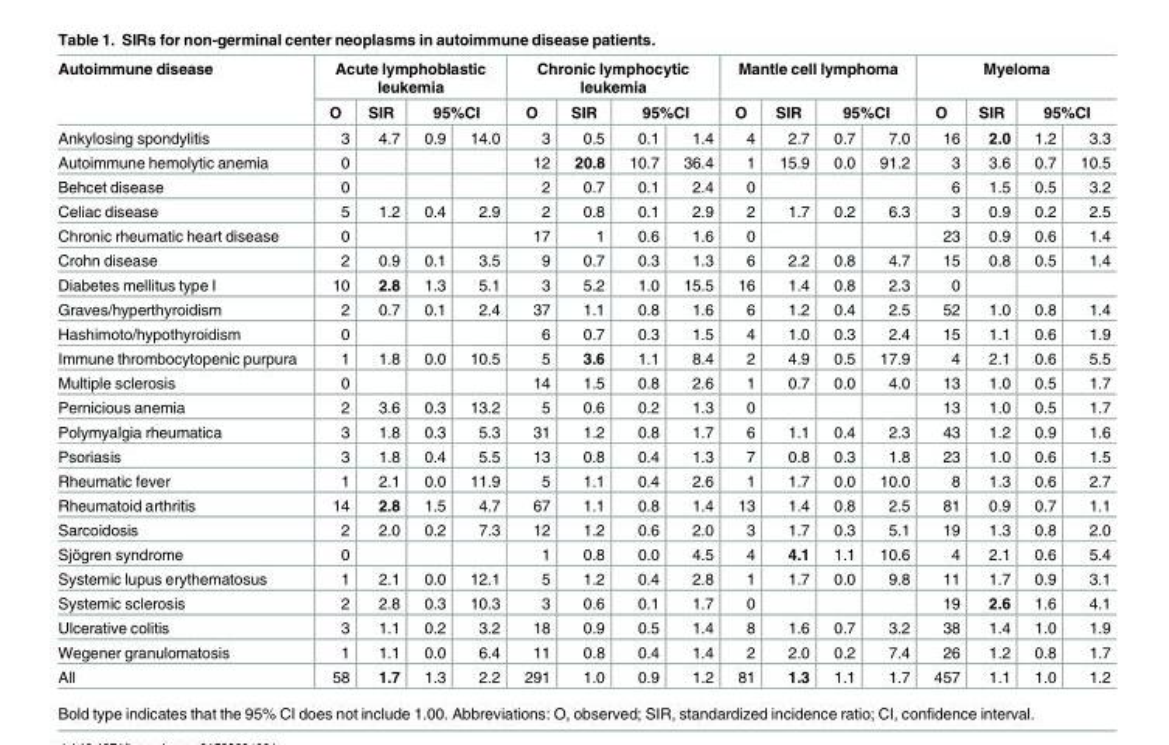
<table><thead><tr><td rowspan="3">Autoimmune disease Ankylosing spondylitis</td><td colspan="4">Acute lymphoblastic leukemia</td><td colspan="4">Chronic lymphocytic leukemia</td><td colspan="4">Mantle cell lymphoma</td><td colspan="4">Myeloma</td></tr><tr><td rowspan="2">O 3</td><td rowspan="2">SIR 4.7</td><td colspan="2">95%CI</td><td rowspan="2">O 3</td><td rowspan="2">SIR 0.5</td><td colspan="2">95%CI</td><td rowspan="2">O 4</td><td rowspan="2">SIR 2.7</td><td colspan="2">95%CI</td><td rowspan="2">O 16</td><td rowspan="2">SIR 2.0</td><td colspan="2">95%CI</td></tr><tr><td>0.9</td><td>14.0</td><td>0.1</td><td>1.4</td><td>0.7</td><td>7.0</td><td>1.2</td><td>3.3</td></tr></thead><tbody><tr><td>Autoimmune hemolytic anemia</td><td>0</td><td></td><td></td><td></td><td>12</td><td>20.8</td><td>10.7</td><td>36.4</td><td>1</td><td>15.9</td><td>0.0</td><td>91.2</td><td>3</td><td>3.6</td><td>0.7</td><td>10.5</td></tr><tr><td>Behcet disease</td><td>0</td><td></td><td></td><td></td><td>2</td><td>0.7</td><td>0.1</td><td>2.4</td><td>0</td><td></td><td></td><td></td><td>6</td><td>1.5</td><td>0.5</td><td>3.2</td></tr><tr><td>Celiac disease</td><td>5</td><td>1.2</td><td>0.4</td><td>2.9</td><td>2</td><td>0.8</td><td>0.1</td><td>2.9</td><td>2</td><td>1.7</td><td>0.2</td><td>6.3</td><td>3</td><td>0.9</td><td>0.2</td><td>2.5</td></tr><tr><td>Chronic rheumatic heart disease</td><td>0</td><td></td><td></td><td></td><td>17</td><td>1</td><td>0.6</td><td>1.6</td><td>0</td><td></td><td></td><td></td><td>23</td><td>0.9</td><td>0.6</td><td>1.4</td></tr><tr><td>Crohn disease</td><td>2</td><td>0.9</td><td>0.1</td><td>3.5</td><td>9</td><td>0.7</td><td>0.3</td><td>1.3</td><td>6</td><td>2.2</td><td>0.8</td><td>4.7</td><td>15</td><td>0.8</td><td>0.5</td><td>1.4</td></tr><tr><td>Diabetes mellitus type I</td><td>10</td><td>2.8</td><td>1.3</td><td>5.1</td><td>3</td><td>5.2</td><td>1.0</td><td>15.5</td><td>16</td><td>1.4</td><td>0.8</td><td>2.3</td><td>0</td><td></td><td></td><td></td></tr><tr><td>Graves/hyperthyroidism</td><td>2</td><td>0.7</td><td>0.1</td><td>2.4</td><td>37</td><td>1.1</td><td>0.8</td><td>1.6</td><td>6</td><td>1.2</td><td>0.4</td><td>2.5</td><td>52</td><td>1.0</td><td>0.8</td><td>1.4</td></tr><tr><td>Hashimoto/hypothyroidism</td><td>0</td><td></td><td></td><td></td><td>6</td><td>0.7</td><td>0.3</td><td>1.5</td><td>4</td><td>1.0</td><td>0.3</td><td>2.4</td><td>15</td><td>1.1</td><td>0.6</td><td>1.9</td></tr><tr><td>Immune thrombocytopenic purpura</td><td>1</td><td>1.8</td><td>0.0</td><td>10.5</td><td>5</td><td>3.6</td><td>1.1</td><td>8.4</td><td>2</td><td>4.9</td><td>0.5</td><td>17.9</td><td>4</td><td>2.1</td><td>0.6</td><td>5.5</td></tr><tr><td>Multiple sclerosis</td><td>0</td><td></td><td></td><td></td><td>14</td><td>1.5</td><td>0.8</td><td>2.6</td><td>1</td><td>0.7</td><td>0.0</td><td>4.0</td><td>13</td><td>1.0</td><td>0.5</td><td>1.7</td></tr><tr><td>Pernicious anemia</td><td>2</td><td>3.6</td><td>0.3</td><td>13.2</td><td>5</td><td>0.6</td><td>0.2</td><td>1.3</td><td>0</td><td></td><td></td><td></td><td>13</td><td>1.0</td><td>0.5</td><td>1.7</td></tr><tr><td>Polymyalgia rheumatica</td><td>3</td><td>1.8</td><td>0.3</td><td>5.3</td><td>31</td><td>1.2</td><td>0.8</td><td>1.7</td><td>6</td><td>1.1</td><td>0.4</td><td>2.3</td><td>43</td><td>1.2</td><td>0.9</td><td>1.6</td></tr><tr><td>Psoriasis</td><td>3</td><td>1.8</td><td>0.4</td><td>5.5</td><td>13</td><td>0.8</td><td>0.4</td><td>1.3</td><td>7</td><td>0.8</td><td>0.3</td><td>1.8</td><td>23</td><td>1.0</td><td>0.6</td><td>1.5</td></tr><tr><td>Rheumatic fever</td><td>1</td><td>2.1</td><td>0.0</td><td>11.9</td><td>5</td><td>1.1</td><td>0.4</td><td>2.6</td><td>1</td><td>1.7</td><td>0.0</td><td>10.0</td><td>8</td><td>1.3</td><td>0.6</td><td>2.7</td></tr><tr><td>Rheumatoid arthritis</td><td>14</td><td>2.8</td><td>1.5</td><td>4.7</td><td>67</td><td>1.1</td><td>0.8</td><td>1.4</td><td>13</td><td>1.4</td><td>0.8</td><td>2.5</td><td>81</td><td>0.9</td><td>0.7</td><td>1.1</td></tr><tr><td>Sarcoidosis</td><td>2</td><td>2.0</td><td>0.2</td><td>7.3</td><td>12</td><td>1.2</td><td>0.6</td><td>2.0</td><td>3</td><td>1.7</td><td>0.3</td><td>5.1</td><td>19</td><td>1.3</td><td>0.8</td><td>2.0</td></tr><tr><td>Sjögren syndrome</td><td>0</td><td></td><td></td><td></td><td>1</td><td>0.8</td><td>0.0</td><td>4.5</td><td>4</td><td>4.1</td><td>1.1</td><td>10.6</td><td>4</td><td>2.1</td><td>0.6</td><td>5.4</td></tr><tr><td>Systemic lupus erythematosus</td><td>1</td><td>2.1</td><td>0.0</td><td>12.1</td><td>5</td><td>1.2</td><td>0.4</td><td>2.8</td><td>1</td><td>1.7</td><td>0.0</td><td>9.8</td><td>11</td><td>1.7</td><td>0.9</td><td>3.1</td></tr><tr><td>Systemic sclerosis</td><td>2</td><td>2.8</td><td>0.3</td><td>10.3</td><td>3</td><td>0.6</td><td>0.1</td><td>1.7</td><td>0</td><td></td><td></td><td></td><td>19</td><td>2.6</td><td>1.6</td><td>4.1</td></tr><tr><td>Ulcerative colitis</td><td>3</td><td>1.1</td><td>0.2</td><td>3.2</td><td>18</td><td>0.9</td><td>0.5</td><td>1.4</td><td>8</td><td>1.6</td><td>0.7</td><td>3.2</td><td>38</td><td>1.4</td><td>1.0</td><td>1.9</td></tr><tr><td>Wegener granulomatosis</td><td>1</td><td>1.1</td><td>0.0</td><td>6.4</td><td>11</td><td>0.8</td><td>0.4</td><td>1.4</td><td>2</td><td>2.0</td><td>0.2</td><td>7.4</td><td>26</td><td>1.2</td><td>0.8</td><td>1.7</td></tr><tr><td>All</td><td>58</td><td>1.7</td><td>1.3</td><td>2.2</td><td>291</td><td>1.0</td><td>0.9</td><td>1.2</td><td>81</td><td>1.3</td><td>1.1</td><td>1.7</td><td>457</td><td>1.1</td><td>1.0</td><td>1.2</td></tr></tbody></table>